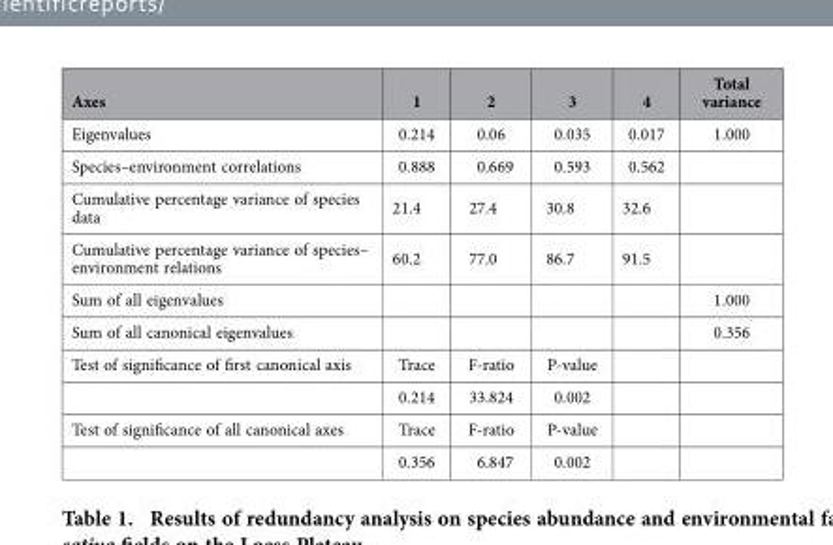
<table><thead><tr><td>Axes</td><td>1</td><td>2</td><td>3</td><td>4</td><td>Total variance</td></tr></thead><tbody><tr><td>Eigenvalues</td><td>0.214</td><td>0.06</td><td>0.035</td><td>0.017</td><td>1.000</td></tr><tr><td>Species–environment correlations</td><td>0.888</td><td>0.669</td><td>0.593</td><td>0.562</td><td></td></tr><tr><td>Cumulative percentage variance of species data</td><td>21.4</td><td>27.4</td><td>30.8</td><td>32.6</td><td></td></tr><tr><td>Cumulative percentage variance of species– environment relations</td><td>60.2</td><td>77.0</td><td>86.7</td><td>91.5</td><td></td></tr><tr><td>Sum of all eigenvalues</td><td></td><td></td><td></td><td></td><td>1.000</td></tr><tr><td>Sum of all canonical eigenvalues</td><td></td><td></td><td></td><td></td><td>0.356</td></tr><tr><td rowspan="2">Test of significance of first canonical axis</td><td>Trace</td><td>F-ratio</td><td>P-value</td><td></td><td></td></tr><tr><td>0.214</td><td>33.824</td><td>0.002</td><td></td><td></td></tr><tr><td rowspan="2">Test of significance of all canonical axes</td><td>Trace</td><td>F-ratio</td><td>P-value</td><td></td><td></td></tr><tr><td>0.356</td><td>6.847</td><td>0.002</td><td></td><td></td></tr></tbody></table>